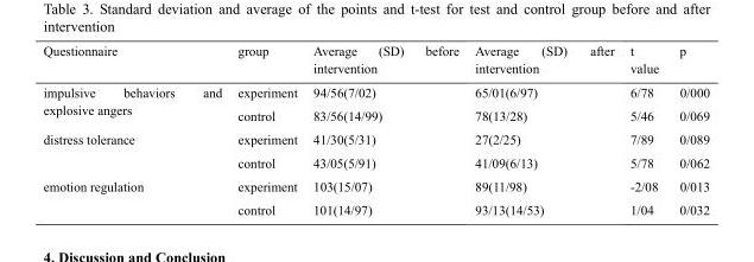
<table><thead><tr><td>Questionnaire</td><td>group</td><td>Average (SD) before intervention</td><td>Average (SD) after intervention</td><td>t value</td><td>p</td></tr></thead><tbody><tr><td rowspan="2">impulsive behaviors and explosive angers</td><td>experiment</td><td>94/56(7/02)</td><td>65/01(6/97)</td><td>6/78</td><td>0/000</td></tr><tr><td>control</td><td>83/56(14/99)</td><td>78(13/28)</td><td>5/46</td><td>0/069</td></tr><tr><td rowspan="2">distress tolerance</td><td>experiment</td><td>41/30(5/31)</td><td>27(2/25)</td><td>7/89</td><td>0/089</td></tr><tr><td>control</td><td>43/05(5/91)</td><td>41/09(6/13)</td><td>5/78</td><td>0/062</td></tr><tr><td rowspan="2">emotion regulation</td><td>experiment</td><td>103(15/07)</td><td>89(11/98)</td><td>-2/08</td><td>0/013</td></tr><tr><td>control</td><td>101(14/97)</td><td>93/13(14/53)</td><td>1/04</td><td>0/032</td></tr></tbody></table>